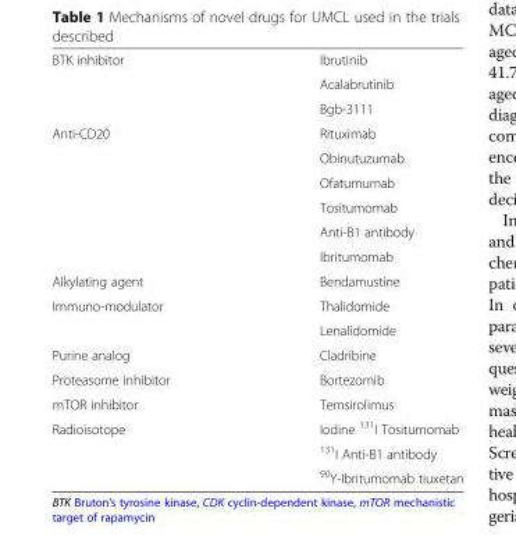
<table><tbody><tr><td rowspan="3">BTK inhibitor</td><td>Ibrutinib</td></tr><tr><td>Acalabrutinib</td></tr><tr><td>Bgb-3111</td></tr><tr><td rowspan="6">Anti-CD20</td><td>Rituximab</td></tr><tr><td>Obinutuzumab</td></tr><tr><td>Ofatumumab</td></tr><tr><td>Tositumomab</td></tr><tr><td>Anti-B1 antibody</td></tr><tr><td>Ibritumomab</td></tr><tr><td>Alkylating agent</td><td>Bendamustine</td></tr><tr><td rowspan="2">Immuno-modulator</td><td>Thalidomide</td></tr><tr><td>Lenalidomide</td></tr><tr><td>Purine analog</td><td>Cladribine</td></tr><tr><td>Proteasome inhibitor</td><td>Bortezomib</td></tr><tr><td>mTOR inhibitor</td><td>Temsirolimus</td></tr><tr><td rowspan="3">Radioisotope</td><td>Iodine <sup>131</sup>I Tositumomab</td></tr><tr><td><sup>131</sup>I Anti-B1 antibody</td></tr><tr><td><sup>90</sup>Y-Ibritumomab tiuxetan</td></tr></tbody></table>